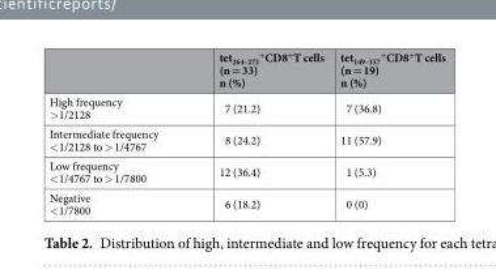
<table><thead><tr><td></td><td>tet<sub>264–272</sub> <sup>+</sup>CD8<sup>+</sup>T cells (n = 33) n (%)</td><td>tet<sub>149–157</sub> <sup>+</sup>CD8<sup>+</sup>T cells (n = 19) n (%)</td></tr></thead><tbody><tr><td>High frequency &gt;1/2128</td><td>7 (21.2)</td><td>7 (36.8)</td></tr><tr><td>Intermediate frequency &lt;1/2128 to &gt; 1/4767</td><td>8 (24.2)</td><td>11 (57.9)</td></tr><tr><td>Low frequency &lt;1/4767 to &gt; 1/7800</td><td>12 (36.4)</td><td>1 (5.3)</td></tr><tr><td>Negative &lt;1/7800</td><td>6 (18.2)</td><td>0 (0)</td></tr></tbody></table>